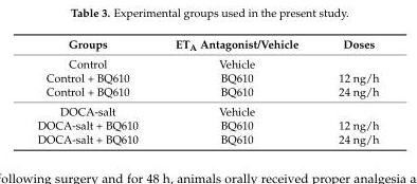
<table><thead><tr><td>Groups</td><td>ET<sub>A</sub> Antagonist/Vehicle</td><td>Doses</td></tr></thead><tbody><tr><td>Control</td><td>Vehicle</td><td></td></tr><tr><td>Control + BQ610</td><td>BQ610</td><td>12 ng/h</td></tr><tr><td>Control + BQ610</td><td>BQ610</td><td>24 ng/h</td></tr><tr><td>DOCA-salt</td><td>Vehicle</td><td></td></tr><tr><td>DOCA-salt + BQ610</td><td>BQ610</td><td>12 ng/h</td></tr><tr><td>DOCA-salt + BQ610</td><td>BQ610</td><td>24 ng/h</td></tr></tbody></table>